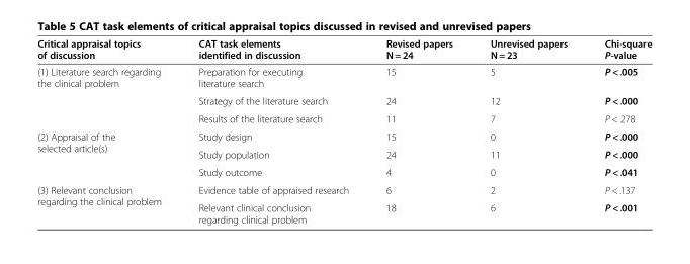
<table><thead><tr><td>Critical appraisal topics of discussion</td><td>CAT task elements identified in discussion</td><td>Revised papers N = 24</td><td>Unrevised papers N = 23</td><td>Chi-square P-value</td></tr></thead><tbody><tr><td rowspan="3">(1) Literature search regarding the clinical problem</td><td>Preparation for executing literature search</td><td>15</td><td>5</td><td>P &lt; .005</td></tr><tr><td>Strategy of the literature search</td><td>24</td><td>12</td><td>P &lt; .000</td></tr><tr><td>Results of the literature search</td><td>11</td><td>7</td><td>P &lt; .278</td></tr><tr><td rowspan="3">(2) Appraisal of the selected article(s)</td><td>Study design</td><td>15</td><td>0</td><td>P &lt; .000</td></tr><tr><td>Study population</td><td>24</td><td>11</td><td>P &lt; .000</td></tr><tr><td>Study outcome</td><td>4</td><td>0</td><td>P &lt; .041</td></tr><tr><td rowspan="2">(3) Relevant conclusion regarding the clinical problem</td><td>Evidence table of appraised research</td><td>6</td><td>2</td><td>P &lt; .137</td></tr><tr><td>Relevant clinical conclusion regarding clinical problem</td><td>18</td><td>6</td><td>P &lt; .001</td></tr></tbody></table>